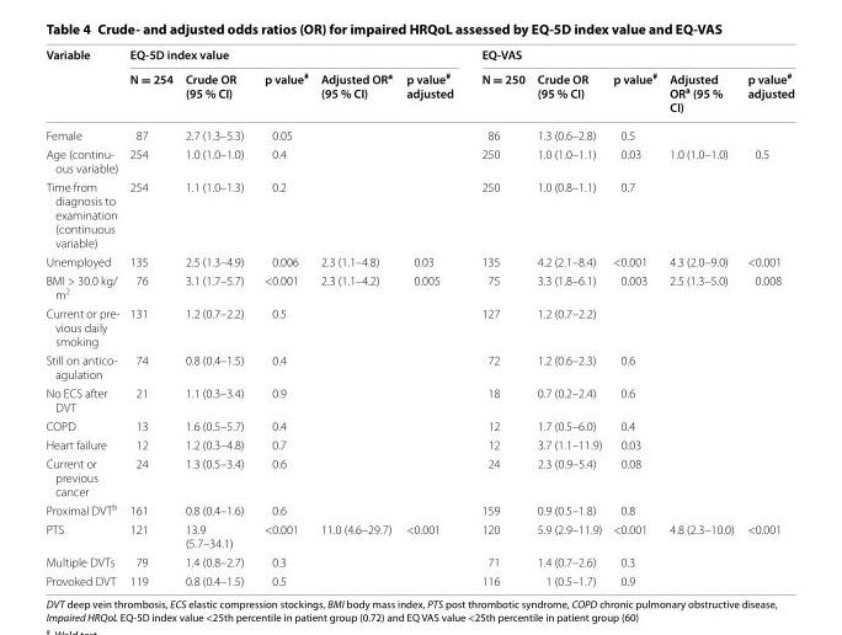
<table><thead><tr><td rowspan="2">Variable</td><td colspan="5">EQ-5D index value</td><td colspan="5">EQ-VAS</td></tr><tr><td>N = 254</td><td>Crude OR (95 % CI)</td><td>p value<sup>#</sup></td><td>Adjusted OR<sup>a</sup> (95 % CI)</td><td>p value<sup>#</sup> adjusted</td><td>N = 250</td><td>Crude OR (95 % CI)</td><td>p value<sup>#</sup></td><td>Adjusted OR<sup>a</sup> (95 % CI)</td><td>p value<sup>#</sup> adjusted</td></tr></thead><tbody><tr><td>Female</td><td>87</td><td>2.7 (1.3–5.3)</td><td>0.05</td><td></td><td></td><td>86</td><td>1.3 (0.6–2.8)</td><td>0.5</td><td></td><td></td></tr><tr><td>Age (continu‑ ous variable)</td><td>254</td><td>1.0 (1.0–1.0)</td><td>0.4</td><td></td><td></td><td>250</td><td>1.0 (1.0–1.1)</td><td>0.03</td><td>1.0 (1.0–1.0)</td><td>0.5</td></tr><tr><td>Time from diagnosis to examination (continuous variable)</td><td>254</td><td>1.1 (1.0–1.3)</td><td>0.2</td><td></td><td></td><td>250</td><td>1.0 (0.8–1.1)</td><td>0.7</td><td></td><td></td></tr><tr><td>Unemployed</td><td>135</td><td>2.5 (1.3–4.9)</td><td>0.006</td><td>2.3 (1.1–4.8)</td><td>0.03</td><td>135</td><td>4.2 (2.1–8.4)</td><td>&lt;0.001</td><td>4.3 (2.0–9.0)</td><td>&lt;0.001</td></tr><tr><td>BMI &gt; 30.0 kg/ m<sup>2</sup></td><td>76</td><td>3.1 (1.7–5.7)</td><td>&lt;0.001</td><td>2.3 (1.1–4.2)</td><td>0.005</td><td>75</td><td>3.3 (1.8–6.1)</td><td>0.003</td><td>2.5 (1.3–5.0)</td><td>0.008</td></tr><tr><td>Current or pre‑ vious daily smoking</td><td>131</td><td>1.2 (0.7–2.2)</td><td>0.5</td><td></td><td></td><td>127</td><td>1.2 (0.7–2.2)</td><td></td><td></td><td></td></tr><tr><td>Still on antico‑ agulation</td><td>74</td><td>0.8 (0.4–1.5)</td><td>0.4</td><td></td><td></td><td>72</td><td>1.2 (0.6–2.3)</td><td>0.6</td><td></td><td></td></tr><tr><td>No ECS after DVT</td><td>21</td><td>1.1 (0.3–3.4)</td><td>0.9</td><td></td><td></td><td>18</td><td>0.7 (0.2–2.4)</td><td>0.6</td><td></td><td></td></tr><tr><td>COPD</td><td>13</td><td>1.6 (0.5–5.7)</td><td>0.4</td><td></td><td></td><td>12</td><td>1.7 (0.5–6.0)</td><td>0.4</td><td></td><td></td></tr><tr><td>Heart failure</td><td>12</td><td>1.2 (0.3–4.8)</td><td>0.7</td><td></td><td></td><td>12</td><td>3.7 (1.1–11.9)</td><td>0.03</td><td></td><td></td></tr><tr><td>Current or previous cancer</td><td>24</td><td>1.3 (0.5–3.4)</td><td>0.6</td><td></td><td></td><td>24</td><td>2.3 (0.9–5.4)</td><td>0.08</td><td></td><td></td></tr><tr><td>Proximal DVT<sup>b</sup></td><td>161</td><td>0.8 (0.4–1.6)</td><td>0.6</td><td></td><td></td><td>159</td><td>0.9 (0.5–1.8)</td><td>0.8</td><td></td><td></td></tr><tr><td>PTS</td><td>121</td><td>13.9 (5.7–34.1)</td><td>&lt;0.001</td><td>11.0 (4.6–29.7)</td><td>&lt;0.001</td><td>120</td><td>5.9 (2.9–11.9)</td><td>&lt;0.001</td><td>4.8 (2.3–10.0)</td><td>&lt;0.001</td></tr><tr><td>Multiple DVTs</td><td>79</td><td>1.4 (0.8–2.7)</td><td>0.3</td><td></td><td></td><td>71</td><td>1.4 (0.7–2.6)</td><td>0.3</td><td></td><td></td></tr><tr><td>Provoked DVT</td><td>119</td><td>0.8 (0.4–1.5)</td><td>0.5</td><td></td><td></td><td>116</td><td>1 (0.5–1.7)</td><td>0.9</td><td></td><td></td></tr></tbody></table>